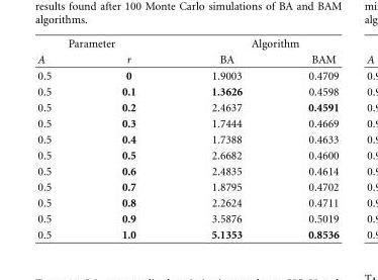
<table><thead><tr><td colspan="2">Parameter</td><td colspan="2">Algorithm</td></tr><tr><td>A</td><td>r</td><td>BA</td><td>BAM</td></tr></thead><tbody><tr><td>0.5</td><td>0</td><td>1.9003</td><td>0.4709</td></tr><tr><td>0.5</td><td>0.1</td><td>1.3626</td><td>0.4598</td></tr><tr><td>0.5</td><td>0.2</td><td>2.4637</td><td>0.4591</td></tr><tr><td>0.5</td><td>0.3</td><td>1.7444</td><td>0.4669</td></tr><tr><td>0.5</td><td>0.4</td><td>1.7388</td><td>0.4633</td></tr><tr><td>0.5</td><td>0.5</td><td>2.6682</td><td>0.4600</td></tr><tr><td>0.5</td><td>0.6</td><td>2.4835</td><td>0.4614</td></tr><tr><td>0.5</td><td>0.7</td><td>1.8795</td><td>0.4702</td></tr><tr><td>0.5</td><td>0.8</td><td>2.2624</td><td>0.4711</td></tr><tr><td>0.5</td><td>0.9</td><td>3.5876</td><td>0.5019</td></tr><tr><td>0.5</td><td>1.0</td><td>5.1353</td><td>0.8536</td></tr></tbody></table>